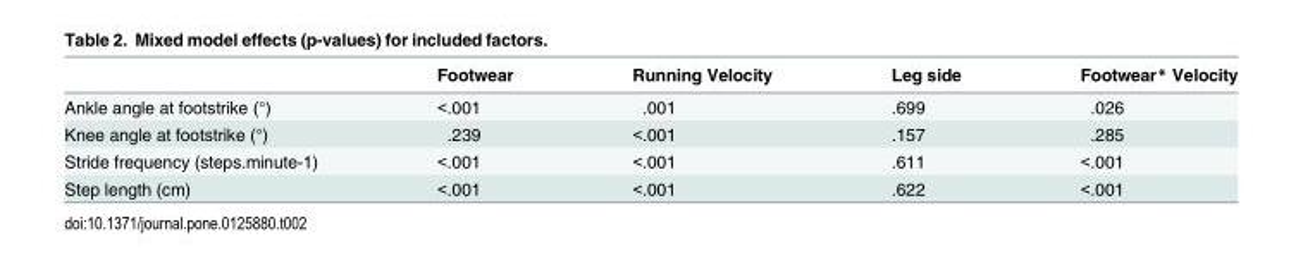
<table><thead><tr><td></td><td>Footwear</td><td>Running Velocity</td><td>Leg side</td><td>Footwear* Velocity</td></tr></thead><tbody><tr><td>Ankle angle at footstrike (°)</td><td>&lt;.001</td><td>.001</td><td>.699</td><td>.026</td></tr><tr><td>Knee angle at footstrike (°)</td><td>.239</td><td>&lt;.001</td><td>.157</td><td>.285</td></tr><tr><td>Stride frequency (steps.minute-1)</td><td>&lt;.001</td><td>&lt;.001</td><td>.611</td><td>&lt;.001</td></tr><tr><td>Step length (cm)</td><td>&lt;.001</td><td>&lt;.001</td><td>.622</td><td>&lt;.001</td></tr></tbody></table>